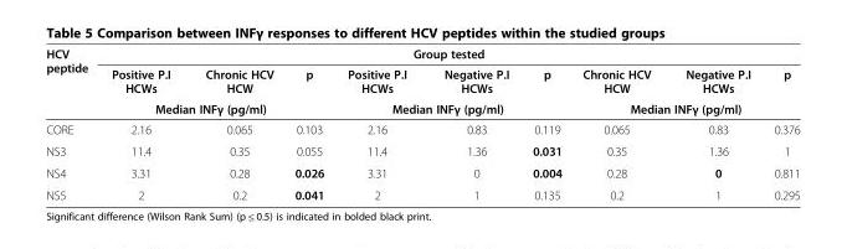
<table><thead><tr><td rowspan="3">HCV peptide</td><td colspan="9">Group tested</td></tr><tr><td>Positive P.I HCWs</td><td>Chronic HCV HCW</td><td>p</td><td>Positive P.I HCWs</td><td>Negative P.I HCWs</td><td>p</td><td>Chronic HCV HCW</td><td>Negative P.I HCWs</td><td>p</td></tr><tr><td colspan="3">Median INFγ (pg/ml)</td><td colspan="3">Median INFγ (pg/ml)</td><td colspan="3">Median INFγ (pg/ml)</td></tr></thead><tbody><tr><td>CORE</td><td>2.16</td><td>0.065</td><td>0.103</td><td>2.16</td><td>0.83</td><td>0.119</td><td>0.065</td><td>0.83</td><td>0.376</td></tr><tr><td>NS3</td><td>11.4</td><td>0.35</td><td>0.055</td><td>11.4</td><td>1.36</td><td>0.031</td><td>0.35</td><td>1.36</td><td>1</td></tr><tr><td>NS4</td><td>3.31</td><td>0.28</td><td>0.026</td><td>3.31</td><td>0</td><td>0.004</td><td>0.28</td><td>0</td><td>0.811</td></tr><tr><td>NS5</td><td>2</td><td>0.2</td><td>0.041</td><td>2</td><td>1</td><td>0.135</td><td>0.2</td><td>1</td><td>0.295</td></tr></tbody></table>